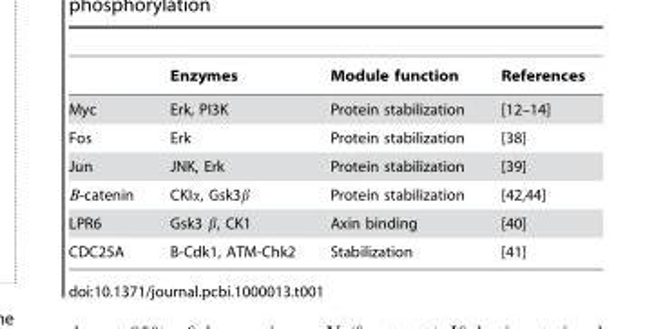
<table><thead><tr><td></td><td>Enzymes</td><td>Module function</td><td>References</td></tr></thead><tbody><tr><td>Myc</td><td>Erk, PI3K</td><td>Protein stabilization</td><td>[12–14]</td></tr><tr><td>Fos</td><td>Erk</td><td>Protein stabilization</td><td>[38]</td></tr><tr><td>Jun</td><td>JNK, Erk</td><td>Protein stabilization</td><td>[39]</td></tr><tr><td>B-catenin</td><td>CKIα, Gsk3β</td><td>Protein stabilization</td><td>[42,44]</td></tr><tr><td>LPR6</td><td>Gsk3 β, CK1</td><td>Axin binding</td><td>[40]</td></tr><tr><td>CDC25A</td><td>B-Cdk1, ATM-Chk2</td><td>Stabilization</td><td>[41]</td></tr></tbody></table>